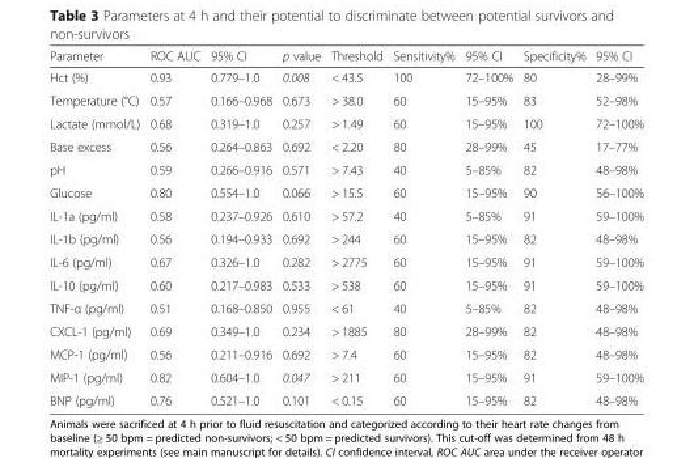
<table><thead><tr><td>Parameter</td><td>ROC AUC</td><td>95% CI</td><td>p value</td><td>Threshold</td><td>Sensitivity%</td><td>95% CI</td><td>Specificity%</td><td>95% CI</td></tr></thead><tbody><tr><td>Hct (%)</td><td>0.93</td><td>0.779–1.0</td><td>0.008</td><td>&lt; 43.5</td><td>100</td><td>72–100%</td><td>80</td><td>28–99%</td></tr><tr><td>Temperature (°C)</td><td>0.57</td><td>0.166–0.968</td><td>0.673</td><td>&gt; 38.0</td><td>60</td><td>15–95%</td><td>83</td><td>52–98%</td></tr><tr><td>Lactate (mmol/L)</td><td>0.68</td><td>0.319–1.0</td><td>0.257</td><td>&gt; 1.49</td><td>60</td><td>15–95%</td><td>100</td><td>72–100%</td></tr><tr><td>Base excess</td><td>0.56</td><td>0.264–0.863</td><td>0.692</td><td>&lt; 2.20</td><td>80</td><td>28–99%</td><td>45</td><td>17–77%</td></tr><tr><td>pH</td><td>0.59</td><td>0.266–0.916</td><td>0.571</td><td>&gt; 7.43</td><td>40</td><td>5–85%</td><td>82</td><td>48–98%</td></tr><tr><td>Glucose</td><td>0.80</td><td>0.554–1.0</td><td>0.066</td><td>&gt; 15.5</td><td>60</td><td>15–95%</td><td>90</td><td>56–100%</td></tr><tr><td>IL-1a (pg/ml)</td><td>0.58</td><td>0.237–0.926</td><td>0.610</td><td>&gt; 57.2</td><td>40</td><td>5–85%</td><td>91</td><td>59–100%</td></tr><tr><td>IL-1b (pg/ml)</td><td>0.56</td><td>0.194–0.933</td><td>0.692</td><td>&gt; 244</td><td>60</td><td>15–95%</td><td>82</td><td>48–98%</td></tr><tr><td>IL-6 (pg/ml)</td><td>0.67</td><td>0.326–1.0</td><td>0.282</td><td>&gt; 2775</td><td>60</td><td>15–95%</td><td>91</td><td>59–100%</td></tr><tr><td>IL-10 (pg/ml)</td><td>0.60</td><td>0.217–0.983</td><td>0.533</td><td>&gt; 538</td><td>60</td><td>15–95%</td><td>91</td><td>59–100%</td></tr><tr><td>TNF-α (pg/ml)</td><td>0.51</td><td>0.168–0.850</td><td>0.955</td><td>&lt; 61</td><td>40</td><td>5–85%</td><td>82</td><td>48–98%</td></tr><tr><td>CXCL-1 (pg/ml)</td><td>0.69</td><td>0.349–1.0</td><td>0.234</td><td>&gt; 1885</td><td>80</td><td>28–99%</td><td>82</td><td>48–98%</td></tr><tr><td>MCP-1 (pg/ml)</td><td>0.56</td><td>0.211–0.916</td><td>0.692</td><td>&gt; 7.4</td><td>60</td><td>15–95%</td><td>82</td><td>48–98%</td></tr><tr><td>MIP-1 (pg/ml)</td><td>0.82</td><td>0.604–1.0</td><td>0.047</td><td>&gt; 211</td><td>60</td><td>15–95%</td><td>91</td><td>59–100%</td></tr><tr><td>BNP (pg/ml)</td><td>0.76</td><td>0.521–1.0</td><td>0.101</td><td>&lt; 0.15</td><td>60</td><td>15–95%</td><td>82</td><td>48–98%</td></tr></tbody></table>